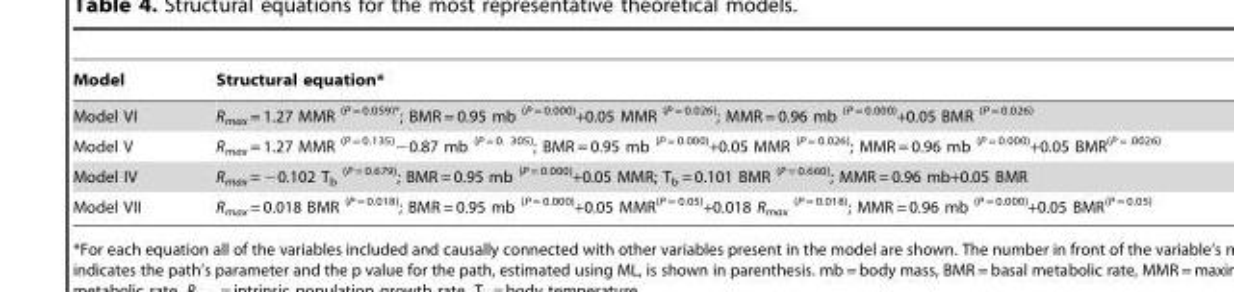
<table><thead><tr><td>Model</td><td>Structural equation*</td></tr></thead><tbody><tr><td>Model VI</td><td>R<sub>max</sub> = 1.27 MMR <sup>(P = 0.059)</sup>*; BMR = 0.95 mb <sup>(P = 0.000)</sup>+0.05 MMR <sup>(P = 0.026)</sup>; MMR = 0.96 mb <sup>(P = 0.000)</sup>+0.05 BMR <sup>(P = 0.026)</sup></td></tr><tr><td>Model V</td><td>R<sub>max</sub> = 1.27 MMR <sup>(P = 0.135)</sup>−0.87 mb <sup>(P = 0. 305)</sup>; BMR = 0.95 mb <sup>(P = 0.000)</sup>+0.05 MMR <sup>(P = 0.026)</sup>; MMR = 0.96 mb <sup>(P = 0.000)</sup>+0.05 BMR<sup>(P = .0026)</sup></td></tr><tr><td>Model IV</td><td>R<sub>max</sub> = −0.102 T<sub>b</sub> <sup>(P = 0.679)</sup>; BMR = 0.95 mb <sup>(P = 0.000)</sup>+0.05 MMR; T<sub>b</sub> = 0.101 BMR <sup>(P = 0.660)</sup>; MMR = 0.96 mb+0.05 BMR</td></tr><tr><td>Model VII</td><td>R<sub>max</sub> = 0.018 BMR <sup>(P = 0.018)</sup>; BMR = 0.95 mb <sup>(P = 0.000)</sup>+0.05 MMR<sup>(P = 0.05)</sup>+0.018 R<sub>max</sub> <sup>(P = 0.018)</sup>; MMR = 0.96 mb <sup>(P = 0.000)</sup>+0.05 BMR<sup>(P = 0.05)</sup></td></tr></tbody></table>